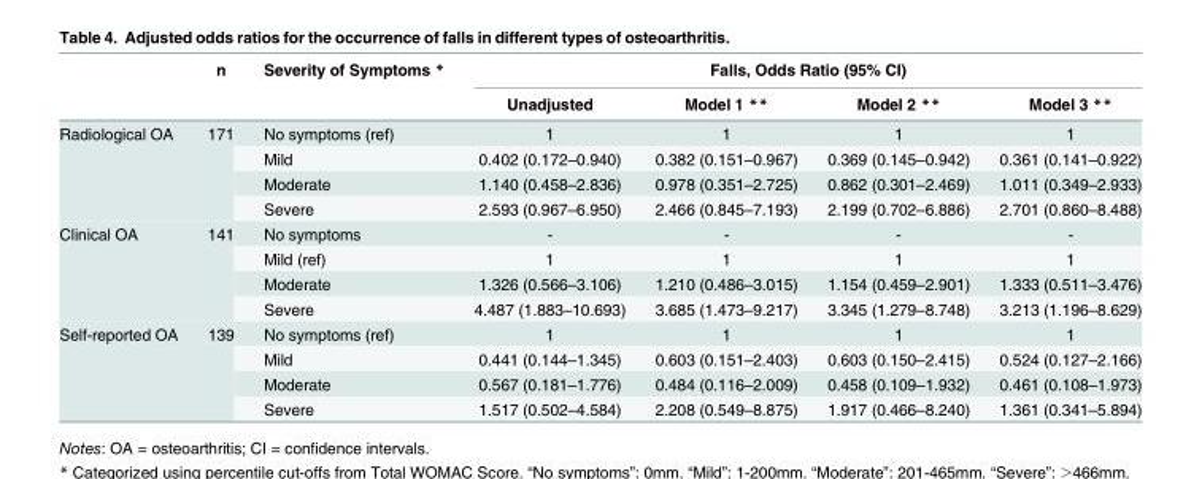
<table><thead><tr><td rowspan="2"></td><td rowspan="2">n</td><td rowspan="2">Severity of Symptoms *</td><td colspan="4">Falls, Odds Ratio (95% CI)</td></tr><tr><td>Unadjusted</td><td>Model 1 **</td><td>Model 2 **</td><td>Model 3 **</td></tr></thead><tbody><tr><td rowspan="4">Radiological OA</td><td rowspan="4">171</td><td>No symptoms (ref)</td><td>1</td><td>1</td><td>1</td><td>1</td></tr><tr><td>Mild</td><td>0.402 (0.172–0.940)</td><td>0.382 (0.151–0.967)</td><td>0.369 (0.145–0.942)</td><td>0.361 (0.141–0.922)</td></tr><tr><td>Moderate</td><td>1.140 (0.458–2.836)</td><td>0.978 (0.351–2.725)</td><td>0.862 (0.301–2.469)</td><td>1.011 (0.349–2.933)</td></tr><tr><td>Severe</td><td>2.593 (0.967–6.950)</td><td>2.466 (0.845–7.193)</td><td>2.199 (0.702–6.886)</td><td>2.701 (0.860–8.488)</td></tr><tr><td rowspan="4">Clinical OA</td><td rowspan="4">141</td><td>No symptoms</td><td>-</td><td>-</td><td>-</td><td>-</td></tr><tr><td>Mild (ref)</td><td>1</td><td>1</td><td>1</td><td>1</td></tr><tr><td>Moderate</td><td>1.326 (0.566–3.106)</td><td>1.210 (0.486–3.015)</td><td>1.154 (0.459–2.901)</td><td>1.333 (0.511–3.476)</td></tr><tr><td>Severe</td><td>4.487 (1.883–10.693)</td><td>3.685 (1.473–9.217)</td><td>3.345 (1.279–8.748)</td><td>3.213 (1.196–8.629)</td></tr><tr><td rowspan="4">Self-reported OA</td><td rowspan="4">139</td><td>No symptoms (ref)</td><td>1</td><td>1</td><td>1</td><td>1</td></tr><tr><td>Mild</td><td>0.441 (0.144–1.345)</td><td>0.603 (0.151–2.403)</td><td>0.603 (0.150–2.415)</td><td>0.524 (0.127–2.166)</td></tr><tr><td>Moderate</td><td>0.567 (0.181–1.776)</td><td>0.484 (0.116–2.009)</td><td>0.458 (0.109–1.932)</td><td>0.461 (0.108–1.973)</td></tr><tr><td>Severe</td><td>1.517 (0.502–4.584)</td><td>2.208 (0.549–8.875)</td><td>1.917 (0.466–8.240)</td><td>1.361 (0.341–5.894)</td></tr></tbody></table>